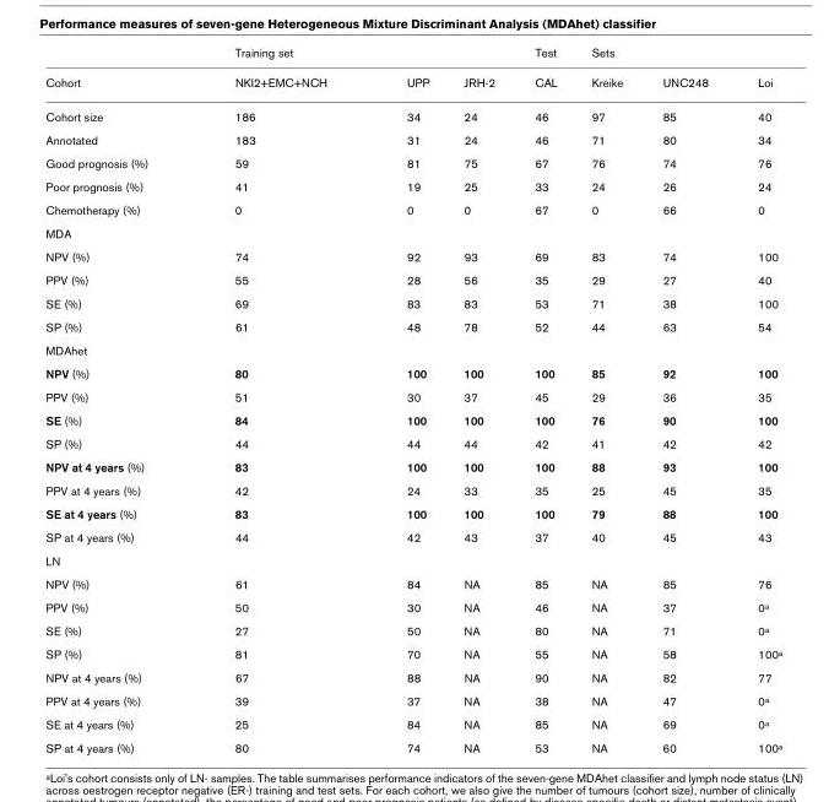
<table><thead><tr><td></td><td>Training set</td><td></td><td></td><td>Test</td><td>Sets</td><td></td><td></td></tr></thead><tbody><tr><td>Cohort</td><td>NKI2+EMC+NCH</td><td>UPP</td><td>JRH-2</td><td>CAL</td><td>Kreike</td><td>UNC248</td><td>Loi</td></tr><tr><td>Cohort size</td><td>186</td><td>34</td><td>24</td><td>46</td><td>97</td><td>85</td><td>40</td></tr><tr><td>Annotated</td><td>183</td><td>31</td><td>24</td><td>46</td><td>71</td><td>80</td><td>34</td></tr><tr><td>Good prognosis (%)</td><td>59</td><td>81</td><td>75</td><td>67</td><td>76</td><td>74</td><td>76</td></tr><tr><td>Poor prognosis (%)</td><td>41</td><td>19</td><td>25</td><td>33</td><td>24</td><td>26</td><td>24</td></tr><tr><td>Chemotherapy (%)</td><td>0</td><td>0</td><td>0</td><td>67</td><td>0</td><td>66</td><td>0</td></tr><tr><td colspan="8">MDA</td></tr><tr><td>NPV (%)</td><td>74</td><td>92</td><td>93</td><td>69</td><td>83</td><td>74</td><td>100</td></tr><tr><td>PPV (%)</td><td>55</td><td>28</td><td>56</td><td>35</td><td>29</td><td>27</td><td>40</td></tr><tr><td>SE (%)</td><td>69</td><td>83</td><td>83</td><td>53</td><td>71</td><td>38</td><td>100</td></tr><tr><td>SP (%)</td><td>61</td><td>48</td><td>78</td><td>52</td><td>44</td><td>63</td><td>54</td></tr><tr><td colspan="8">MDAhet</td></tr><tr><td>NPV (%)</td><td>80</td><td>100</td><td>100</td><td>100</td><td>85</td><td>92</td><td>100</td></tr><tr><td>PPV (%)</td><td>51</td><td>30</td><td>37</td><td>45</td><td>29</td><td>36</td><td>35</td></tr><tr><td>SE (%)</td><td>84</td><td>100</td><td>100</td><td>100</td><td>76</td><td>90</td><td>100</td></tr><tr><td>SP (%)</td><td>44</td><td>44</td><td>44</td><td>42</td><td>41</td><td>42</td><td>42</td></tr><tr><td>NPV at 4 years (%)</td><td>83</td><td>100</td><td>100</td><td>100</td><td>88</td><td>93</td><td>100</td></tr><tr><td>PPV at 4 years (%)</td><td>42</td><td>24</td><td>33</td><td>35</td><td>25</td><td>45</td><td>35</td></tr><tr><td>SE at 4 years (%)</td><td>83</td><td>100</td><td>100</td><td>100</td><td>79</td><td>88</td><td>100</td></tr><tr><td>SP at 4 years (%)</td><td>44</td><td>42</td><td>43</td><td>37</td><td>40</td><td>45</td><td>43</td></tr><tr><td colspan="8">LN</td></tr><tr><td>NPV (%)</td><td>61</td><td>84</td><td>NA</td><td>85</td><td>NA</td><td>85</td><td>76</td></tr><tr><td>PPV (%)</td><td>50</td><td>30</td><td>NA</td><td>46</td><td>NA</td><td>37</td><td>0<sup>a</sup></td></tr><tr><td>SE (%)</td><td>27</td><td>50</td><td>NA</td><td>80</td><td>NA</td><td>71</td><td>0<sup>a</sup></td></tr><tr><td>SP (%)</td><td>81</td><td>70</td><td>NA</td><td>55</td><td>NA</td><td>58</td><td>100<sup>a</sup></td></tr><tr><td>NPV at 4 years (%)</td><td>67</td><td>88</td><td>NA</td><td>90</td><td>NA</td><td>82</td><td>77</td></tr><tr><td>PPV at 4 years (%)</td><td>39</td><td>37</td><td>NA</td><td>38</td><td>NA</td><td>47</td><td>0<sup>a</sup></td></tr><tr><td>SE at 4 years (%)</td><td>25</td><td>84</td><td>NA</td><td>85</td><td>NA</td><td>69</td><td>0<sup>a</sup></td></tr><tr><td>SP at 4 years (%)</td><td>80</td><td>74</td><td>NA</td><td>53</td><td>NA</td><td>60</td><td>100<sup>a</sup></td></tr></tbody></table>